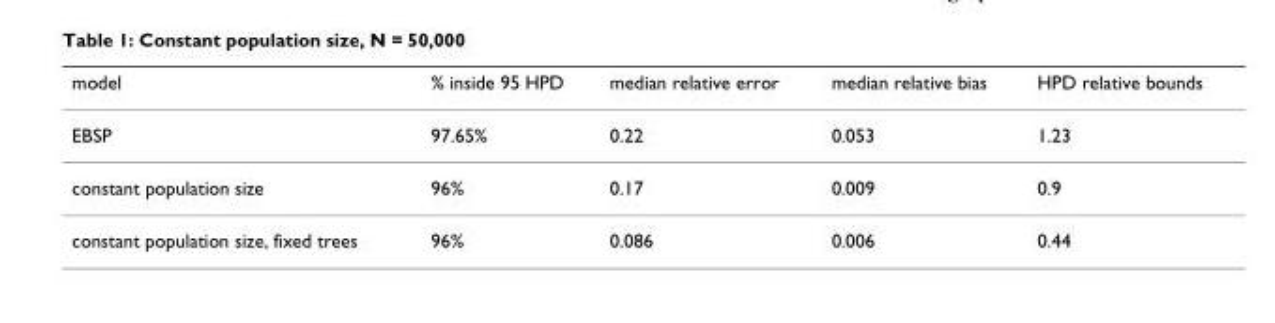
<table><thead><tr><td>model</td><td>% inside 95 HPD</td><td>median relative error</td><td>median relative bias</td><td>HPD relative bounds</td></tr></thead><tbody><tr><td>EBSP</td><td>97.65%</td><td>0.22</td><td>0.053</td><td>1.23</td></tr><tr><td>constant population size</td><td>96%</td><td>0.17</td><td>0.009</td><td>0.9</td></tr><tr><td>constant population size, fixed trees</td><td>96%</td><td>0.086</td><td>0.006</td><td>0.44</td></tr></tbody></table>